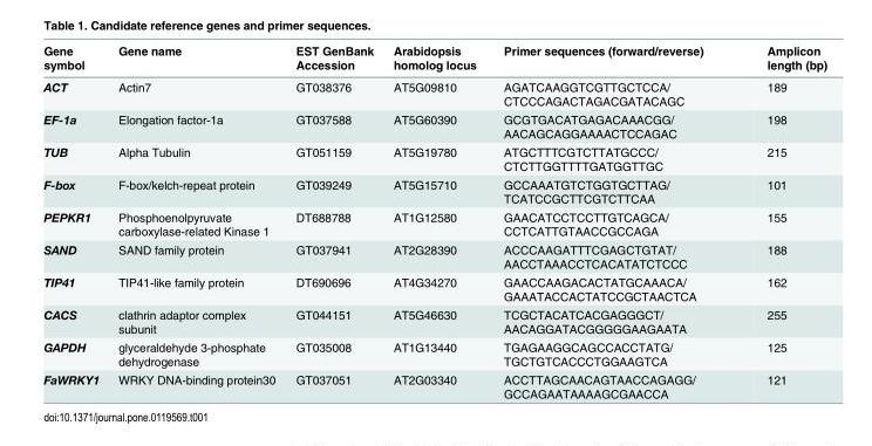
<table><thead><tr><td>Gene symbol</td><td>Gene name</td><td>EST GenBank Accession</td><td>Arabidopsis homolog locus</td><td>Primer sequences (forward/reverse)</td><td>Amplicon length (bp)</td></tr></thead><tbody><tr><td>ACT</td><td>Actin7</td><td>GT038376</td><td>AT5G09810</td><td>AGATCAAGGTCGTTGCTCCA/ CTCCCAGACTAGACGATACAGC</td><td>189</td></tr><tr><td>EF-1a</td><td>Elongation factor-1a</td><td>GT037588</td><td>AT5G60390</td><td>GCGTGACATGAGACAAACGG/ AACAGCAGGAAAACTCCAGAC</td><td>198</td></tr><tr><td>TUB</td><td>Alpha Tubulin</td><td>GT051159</td><td>AT5G19780</td><td>ATGCTTTCGTCTTATGCCC/ CTCTTGGTTTTGATGGTTGC</td><td>215</td></tr><tr><td>F-box</td><td>F-box/kelch-repeat protein</td><td>GT039249</td><td>AT5G15710</td><td>GCCAAATGTCTGGTGCTTAG/ TCATCCGCTTCGTCTTCAA</td><td>101</td></tr><tr><td>PEPKR1</td><td>Phosphoenolpyruvate carboxylase-related Kinase 1</td><td>DT688788</td><td>AT1G12580</td><td>GAACATCCTCCTTGTCAGCA/ CCTCATTGTAACCGCCAGA</td><td>155</td></tr><tr><td>SAND</td><td>SAND family protein</td><td>GT037941</td><td>AT2G28390</td><td>ACCCAAGATTTCGAGCTGTAT/ AACCTAAACCTCACATATCTCCC</td><td>188</td></tr><tr><td>TIP41</td><td>TIP41-like family protein</td><td>DT690696</td><td>AT4G34270</td><td>GAACCAAGACACTATGCAAACA/ GAAATACCACTATCCGCTAACTCA</td><td>162</td></tr><tr><td>CACS</td><td>clathrin adaptor complex subunit</td><td>GT044151</td><td>AT5G46630</td><td>TCGCTACATCACGAGGGCT/ AACAGGATACGGGGGAAGAATA</td><td>255</td></tr><tr><td>GAPDH</td><td>glyceraldehyde 3-phosphate dehydrogenase</td><td>GT035008</td><td>AT1G13440</td><td>TGAGAAGGCAGCCACCTATG/ TGCTGTCACCCTGGAAGTCA</td><td>125</td></tr><tr><td>FaWRKY1</td><td>WRKY DNA-binding protein30</td><td>GT037051</td><td>AT2G03340</td><td>ACCTTAGCAACAGTAACCAGAGG/ GCCAGAATAAAAGCGAACCA</td><td>121</td></tr></tbody></table>